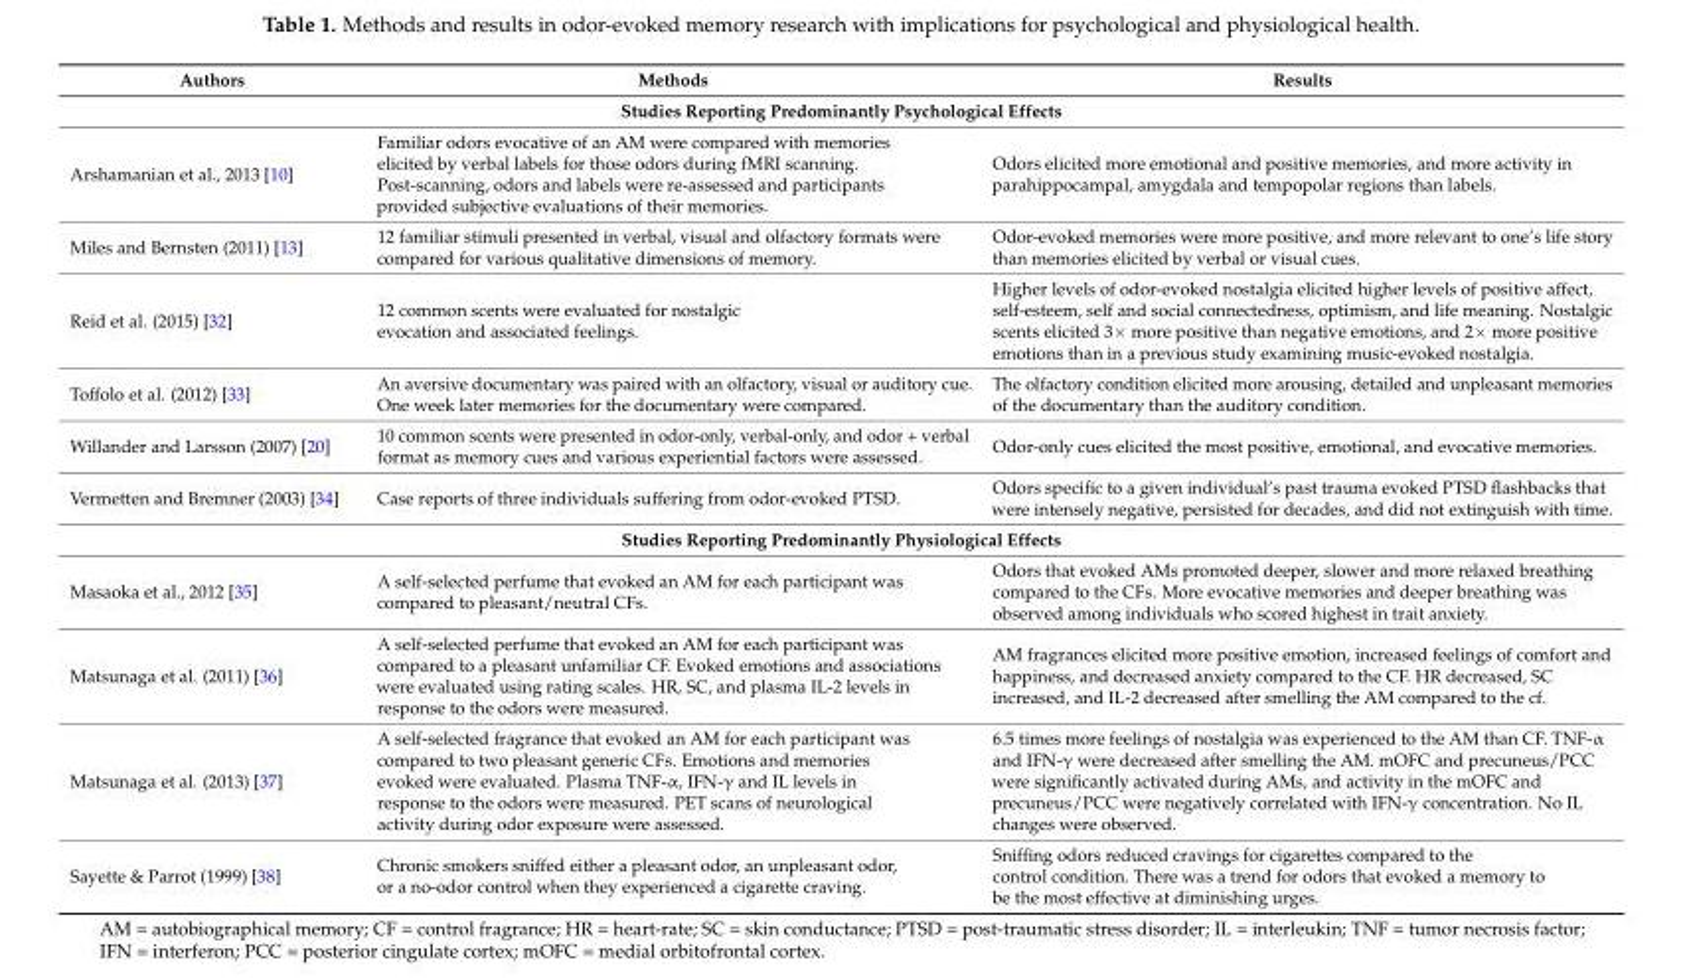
<table><thead><tr><td>Authors</td><td>Methods</td><td>Results</td></tr></thead><tbody><tr><td colspan="3">Studies Reporting Predominantly Psychological Effects</td></tr><tr><td>Arshamanian et al., 2013 [10]</td><td>Familiar odors evocative of an AM were compared with memories elicited by verbal labels for those odors during fMRI scanning. Post-scanning, odors and labels were re-assessed and participants provided subjective evaluations of their memories.</td><td>Odors elicited more emotional and positive memories, and more activity in parahippocampal, amygdala and tempopolar regions than labels.</td></tr><tr><td>Miles and Bernsten (2011) [13]</td><td>12 familiar stimuli presented in verbal, visual and olfactory formats were compared for various qualitative dimensions of memory.</td><td>Odor-evoked memories were more positive, and more relevant to one’s life story than memories elicited by verbal or visual cues.</td></tr><tr><td>Reid et al. (2015) [32]</td><td>12 common scents were evaluated for nostalgic evocation and associated feelings.</td><td>Higher levels of odor-evoked nostalgia elicited higher levels of positive affect, self-esteem, self and social connectedness, optimism, and life meaning. Nostalgic scents elicited 3ˆ more positive than negative emotions, and 2ˆ more positive emotions than in a previous study examining music-evoked nostalgia.</td></tr><tr><td>Toffolo et al. (2012) [33]</td><td>An aversive documentary was paired with an olfactory, visual or auditory cue. One week later memories for the documentary were compared.</td><td>The olfactory condition elicited more arousing, detailed and unpleasant memories of the documentary than the auditory condition.</td></tr><tr><td>Willander and Larsson (2007) [20]</td><td>10 common scents were presented in odor-only, verbal-only, and odor + verbal format as memory cues and various experiential factors were assessed.</td><td>Odor-only cues elicited the most positive, emotional, and evocative memories.</td></tr><tr><td>Vermetten and Bremner (2003) [34]</td><td>Case reports of three individuals suffering from odor-evoked PTSD.</td><td>Odors specific to a given individual’s past trauma evoked PTSD flashbacks that were intensely negative, persisted for decades, and did not extinguish with time.</td></tr><tr><td colspan="3">Studies Reporting Predominantly Physiological Effects</td></tr><tr><td>Masaoka et al., 2012 [35]</td><td>A self-selected perfume that evoked an AM for each participant was compared to pleasant/neutral CFs.</td><td>Odors that evoked AMs promoted deeper, slower and more relaxed breathing compared to the CFs. More evocative memories and deeper breathing was observed among individuals who scored highest in trait anxiety.</td></tr><tr><td>Matsunaga et al. (2011) [36]</td><td>A self-selected perfume that evoked an AM for each participant was compared to a pleasant unfamiliar CF. Evoked emotions and associations were evaluated using rating scales. HR, SC, and plasma IL-2 levels in response to the odors were measured.</td><td>AM fragrances elicited more positive emotion, increased feelings of comfort and happiness, and decreased anxiety compared to the CF. HR decreased, SC increased, and IL-2 decreased after smelling the AM compared to the cf.</td></tr><tr><td>Matsunaga et al. (2013) [37]</td><td>A self-selected fragrance that evoked an AM for each participant was compared to two pleasant generic CFs. Emotions and memories evoked were evaluated. Plasma TNF-α, IFN-γ and IL levels in response to the odors were measured. PET scans of neurological activity during odor exposure were assessed.</td><td>6.5 times more feelings of nostalgia was experienced to the AM than CF. TNF-α and IFN-γ were decreased after smelling the AM. mOFC and precuneus/PCC were significantly activated during AMs, and activity in the mOFC and precuneus/PCC were negatively correlated with IFN-γ concentration. No IL changes were observed.</td></tr><tr><td>Sayette &amp; Parrot (1999) [38]</td><td>Chronic smokers sniffed either a pleasant odor, an unpleasant odor, or a no-odor control when they experienced a cigarette craving.</td><td>Sniffing odors reduced cravings for cigarettes compared to the control condition. There was a trend for odors that evoked a memory to be the most effective at diminishing urges.</td></tr></tbody></table>